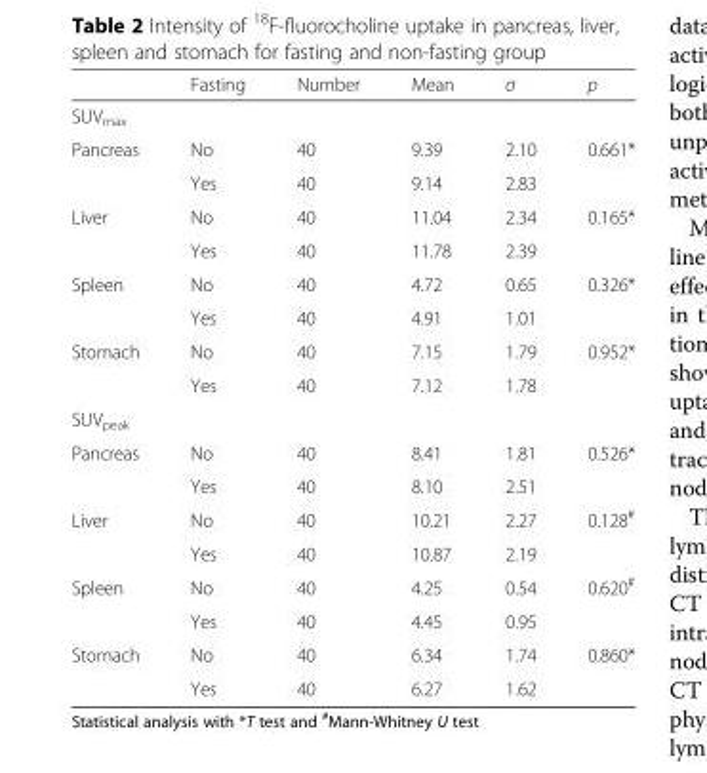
<table><thead><tr><td></td><td>Fasting</td><td>Number</td><td>Mean</td><td>σ</td><td>p</td></tr></thead><tbody><tr><td colspan="6">SUV<sub>max</sub></td></tr><tr><td rowspan="2">Pancreas</td><td>No</td><td>40</td><td>9.39</td><td>2.10</td><td>0.661*</td></tr><tr><td>Yes</td><td>40</td><td>9.14</td><td>2.83</td><td></td></tr><tr><td rowspan="2">Liver</td><td>No</td><td>40</td><td>11.04</td><td>2.34</td><td>0.165*</td></tr><tr><td>Yes</td><td>40</td><td>11.78</td><td>2.39</td><td></td></tr><tr><td rowspan="2">Spleen</td><td>No</td><td>40</td><td>4.72</td><td>0.65</td><td>0.326*</td></tr><tr><td>Yes</td><td>40</td><td>4.91</td><td>1.01</td><td></td></tr><tr><td rowspan="2">Stomach</td><td>No</td><td>40</td><td>7.15</td><td>1.79</td><td>0.952*</td></tr><tr><td>Yes</td><td>40</td><td>7.12</td><td>1.78</td><td></td></tr><tr><td colspan="6">SUV<sub>peak</sub></td></tr><tr><td rowspan="2">Pancreas</td><td>No</td><td>40</td><td>8.41</td><td>1.81</td><td>0.526*</td></tr><tr><td>Yes</td><td>40</td><td>8.10</td><td>2.51</td><td></td></tr><tr><td rowspan="2">Liver</td><td>No</td><td>40</td><td>10.21</td><td>2.27</td><td>0.128<sup>#</sup></td></tr><tr><td>Yes</td><td>40</td><td>10.87</td><td>2.19</td><td></td></tr><tr><td rowspan="2">Spleen</td><td>No</td><td>40</td><td>4.25</td><td>0.54</td><td>0.620<sup>#</sup></td></tr><tr><td>Yes</td><td>40</td><td>4.45</td><td>0.95</td><td></td></tr><tr><td rowspan="2">Stomach</td><td>No</td><td>40</td><td>6.34</td><td>1.74</td><td>0.860*</td></tr><tr><td>Yes</td><td>40</td><td>6.27</td><td>1.62</td><td></td></tr></tbody></table>